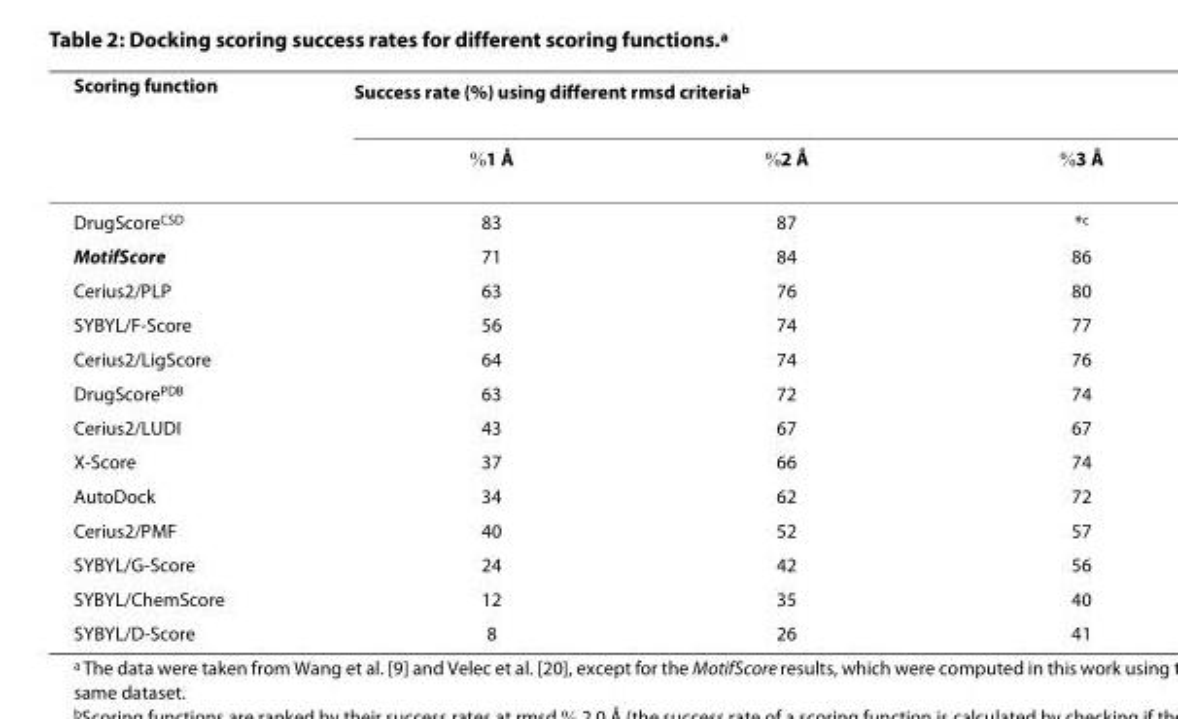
<table><thead><tr><td rowspan="2">Scoring function</td><td colspan="3">Success rate (%) using different rmsd criteria<sup>b</sup></td></tr><tr><td>≦1 Å</td><td>≦2 Å</td><td>≦3 Å</td></tr></thead><tbody><tr><td>DrugScore<sup>CSD</sup></td><td>83</td><td>87</td><td>*<sup>c</sup></td></tr><tr><td>MotifScore</td><td>71</td><td>84</td><td>86</td></tr><tr><td>Cerius2/PLP</td><td>63</td><td>76</td><td>80</td></tr><tr><td>SYBYL/F-Score</td><td>56</td><td>74</td><td>77</td></tr><tr><td>Cerius2/LigScore</td><td>64</td><td>74</td><td>76</td></tr><tr><td>DrugScore<sup>PDB</sup></td><td>63</td><td>72</td><td>74</td></tr><tr><td>Cerius2/LUDI</td><td>43</td><td>67</td><td>67</td></tr><tr><td>X-Score</td><td>37</td><td>66</td><td>74</td></tr><tr><td>AutoDock</td><td>34</td><td>62</td><td>72</td></tr><tr><td>Cerius2/PMF</td><td>40</td><td>52</td><td>57</td></tr><tr><td>SYBYL/G-Score</td><td>24</td><td>42</td><td>56</td></tr><tr><td>SYBYL/ChemScore</td><td>12</td><td>35</td><td>40</td></tr><tr><td>SYBYL/D-Score</td><td>8</td><td>26</td><td>41</td></tr></tbody></table>